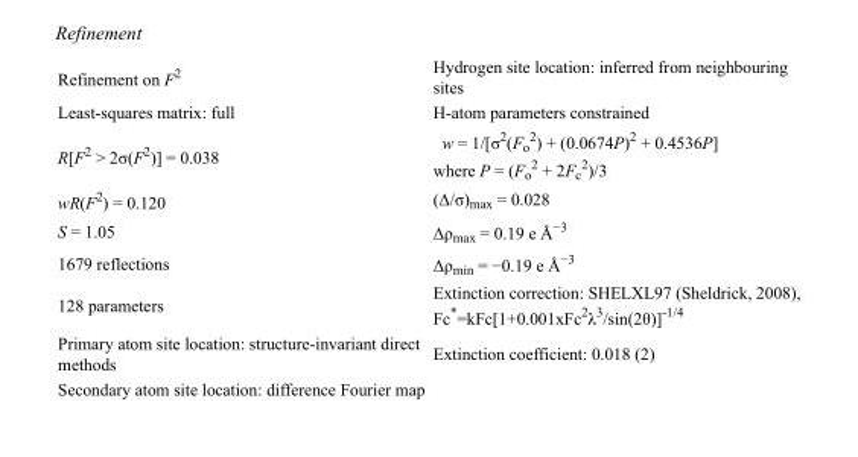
<table><tbody><tr><td>Refinement on F<sup>2</sup></td><td>Hydrogen site location: inferred from neighbouring sites</td></tr><tr><td>Least-squares matrix: full</td><td>H-atom parameters constrained</td></tr><tr><td>R[F<sup>2</sup> &gt; 2σ(F<sup>2</sup>)] = 0.038</td><td>w = 1/[σ<sup>2</sup>(F<sub>o</sub> <sup>2</sup>) + (0.0674P)<sup>2</sup> + 0.4536P] where P = (F<sub>o</sub> <sup>2</sup> + 2F<sub>c</sub> <sup>2</sup>)/3</td></tr><tr><td>wR(F<sup>2</sup>) = 0.120</td><td>(Δ/σ)<sub>max</sub> = 0.028</td></tr><tr><td>S = 1.05</td><td>Δρ<sub>max</sub> = 0.19 e Å<sup>−3</sup></td></tr><tr><td>1679 reflections</td><td>Δρ<sub>min</sub> = −0.19 e Å<sup>−3</sup></td></tr><tr><td>128 parameters</td><td>Extinction correction: SHELXL97 (Sheldrick, 2008), Fc*=kFc[1+0.001xFc<sup>2</sup>λ<sup>3</sup>/sin(2θ)]<sup>-1/4</sup></td></tr><tr><td>Primary atom site location: structure-invariant direct methods</td><td>Extinction coefficient: 0.018 (2)</td></tr><tr><td>Secondary atom site location: difference Fourier map</td><td></td></tr></tbody></table>